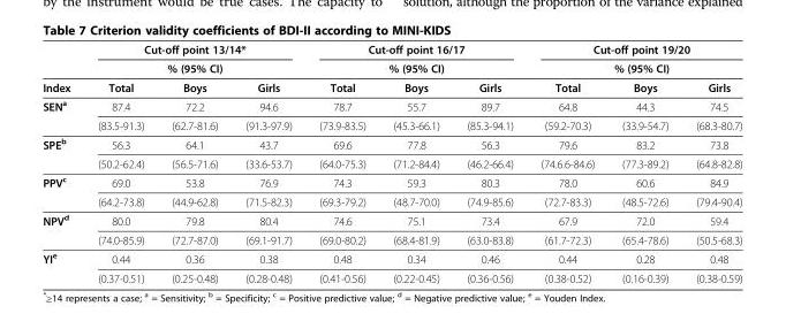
<table><thead><tr><td rowspan="3">Index</td><td rowspan="2" colspan="3">Cut-off point 13/14* % (95% CI)</td><td rowspan="2" colspan="3">Cut-off point 16/17 % (95% CI)</td><td rowspan="2" colspan="3">Cut-off point 19/20 % (95% CI)</td></tr><tr></tr><tr><td>Total</td><td>Boys</td><td>Girls</td><td>Total</td><td>Boys</td><td>Girls</td><td>Total</td><td>Boys</td><td>Girls</td></tr></thead><tbody><tr><td rowspan="2">SEN<sup>a</sup></td><td>87.4</td><td>72.2</td><td>94.6</td><td>78.7</td><td>55.7</td><td>89.7</td><td>64.8</td><td>44.3</td><td>74.5</td></tr><tr><td>(83.5-91.3)</td><td>(62.7-81.6)</td><td>(91.3-97.9)</td><td>(73.9-83.5)</td><td>(45.3-66.1)</td><td>(85.3-94.1)</td><td>(59.2-70.3)</td><td>(33.9-54.7)</td><td>(68.3-80.7)</td></tr><tr><td rowspan="2">SPE<sup>b</sup></td><td>56.3</td><td>64.1</td><td>43.7</td><td>69.6</td><td>77.8</td><td>56.3</td><td>79.6</td><td>83.2</td><td>73.8</td></tr><tr><td>(50.2-62.4)</td><td>(56.5-71.6)</td><td>(33.6-53.7)</td><td>(64.0-75.3)</td><td>(71.2-84.4)</td><td>(46.2-66.4)</td><td>(74.6.6-84.6)</td><td>(77.3-89.2)</td><td>(64.8-82.8)</td></tr><tr><td rowspan="2">PPV<sup>c</sup></td><td>69.0</td><td>53.8</td><td>76.9</td><td>74.3</td><td>59.3</td><td>80.3</td><td>78.0</td><td>60.6</td><td>84.9</td></tr><tr><td>(64.2-73.8)</td><td>(44.9-62.8)</td><td>(71.5-82.3)</td><td>(69.3-79.2)</td><td>(48.7-70.0)</td><td>(74.9-85.6)</td><td>(72.7-83.3)</td><td>(48.5-72.6)</td><td>(79.4-90.4)</td></tr><tr><td rowspan="2">NPV<sup>d</sup></td><td>80.0</td><td>79.8</td><td>80.4</td><td>74.6</td><td>75.1</td><td>73.4</td><td>67.9</td><td>72.0</td><td>59.4</td></tr><tr><td>(74.0-85.9)</td><td>(72.7-87.0)</td><td>(69.1-91.7)</td><td>(69.0-80.2)</td><td>(68.4-81.9)</td><td>(63.0-83.8)</td><td>(61.7-72.3)</td><td>(65.4-78.6)</td><td>(50.5-68.3)</td></tr><tr><td rowspan="2">YI<sup>e</sup></td><td>0.44</td><td>0.36</td><td>0.38</td><td>0.48</td><td>0.34</td><td>0.46</td><td>0.44</td><td>0.28</td><td>0.48</td></tr><tr><td>(0.37-0.51)</td><td>(0.25-0.48)</td><td>(0.28-0.48)</td><td>(0.41-0.56)</td><td>(0.22-0.45)</td><td>(0.36-0.56)</td><td>(0.38-0.52)</td><td>(0.16-0.39)</td><td>(0.38-0.59)</td></tr></tbody></table>